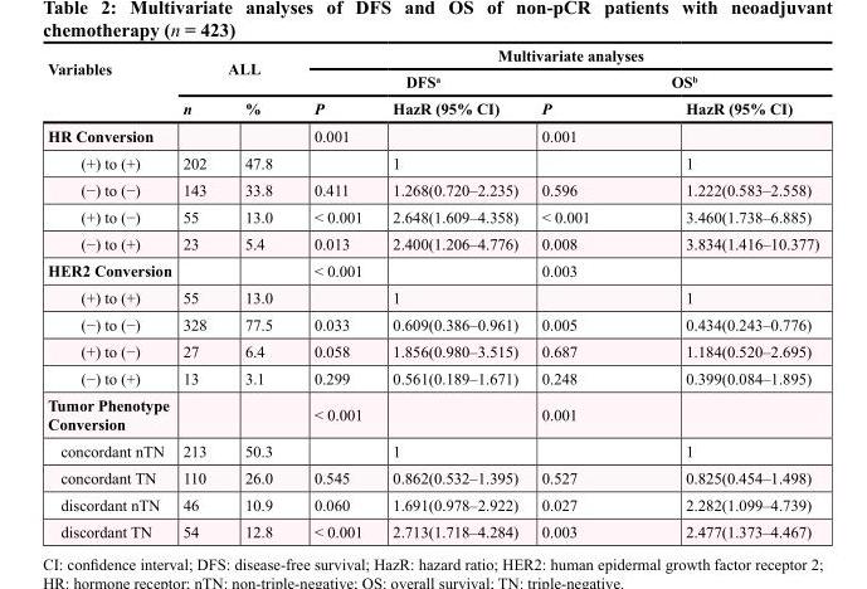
<table><thead><tr><td rowspan="3">Variables</td><td rowspan="2" colspan="2">ALL</td><td colspan="4">Multivariate analyses</td></tr><tr><td colspan="2">DFS<sup>a</sup></td><td colspan="2">OS<sup>b</sup></td></tr><tr><td>n</td><td>%</td><td>P</td><td>HazR (95% CI)</td><td>P</td><td>HazR (95% CI)</td></tr></thead><tbody><tr><td>HR Conversion</td><td></td><td></td><td>0.001</td><td></td><td>0.001</td><td></td></tr><tr><td>(+) to (+)</td><td>202</td><td>47.8</td><td></td><td>1</td><td></td><td>1</td></tr><tr><td>(−) to (−)</td><td>143</td><td>33.8</td><td>0.411</td><td>1.268(0.720–2.235)</td><td>0.596</td><td>1.222(0.583–2.558)</td></tr><tr><td>(+) to (−)</td><td>55</td><td>13.0</td><td>&lt; 0.001</td><td>2.648(1.609–4.358)</td><td>&lt; 0.001</td><td>3.460(1.738–6.885)</td></tr><tr><td>(−) to (+)</td><td>23</td><td>5.4</td><td>0.013</td><td>2.400(1.206–4.776)</td><td>0.008</td><td>3.834(1.416–10.377)</td></tr><tr><td>HER2 Conversion</td><td></td><td></td><td>&lt; 0.001</td><td></td><td>0.003</td><td></td></tr><tr><td>(+) to (+)</td><td>55</td><td>13.0</td><td></td><td>1</td><td></td><td>1</td></tr><tr><td>(−) to (−)</td><td>328</td><td>77.5</td><td>0.033</td><td>0.609(0.386–0.961)</td><td>0.005</td><td>0.434(0.243–0.776)</td></tr><tr><td>(+) to (−)</td><td>27</td><td>6.4</td><td>0.058</td><td>1.856(0.980–3.515)</td><td>0.687</td><td>1.184(0.520–2.695)</td></tr><tr><td>(−) to (+)</td><td>13</td><td>3.1</td><td>0.299</td><td>0.561(0.189–1.671)</td><td>0.248</td><td>0.399(0.084–1.895)</td></tr><tr><td>Tumor Phenotype Conversion</td><td></td><td></td><td>&lt; 0.001</td><td></td><td>0.001</td><td></td></tr><tr><td>concordant nTN</td><td>213</td><td>50.3</td><td></td><td>1</td><td></td><td>1</td></tr><tr><td>concordant TN</td><td>110</td><td>26.0</td><td>0.545</td><td>0.862(0.532–1.395)</td><td>0.527</td><td>0.825(0.454–1.498)</td></tr><tr><td>discordant nTN</td><td>46</td><td>10.9</td><td>0.060</td><td>1.691(0.978–2.922)</td><td>0.027</td><td>2.282(1.099–4.739)</td></tr><tr><td>discordant TN</td><td>54</td><td>12.8</td><td>&lt; 0.001</td><td>2.713(1.718–4.284)</td><td>0.003</td><td>2.477(1.373–4.467)</td></tr></tbody></table>